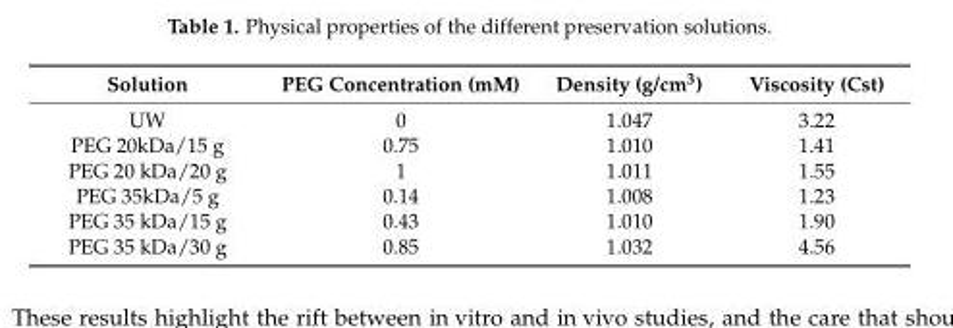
<table><thead><tr><td>Solution</td><td>PEG Concentration (mM)</td><td>Density (g/cm<sup>3</sup>)</td><td>Viscosity (Cst)</td></tr></thead><tbody><tr><td>UW</td><td>0</td><td>1.047</td><td>3.22</td></tr><tr><td>PEG 20kDa/15 g</td><td>0.75</td><td>1.010</td><td>1.41</td></tr><tr><td>PEG 20 kDa/20 g</td><td>1</td><td>1.011</td><td>1.55</td></tr><tr><td>PEG 35kDa/5 g</td><td>0.14</td><td>1.008</td><td>1.23</td></tr><tr><td>PEG 35 kDa/15 g</td><td>0.43</td><td>1.010</td><td>1.90</td></tr><tr><td>PEG 35 kDa/30 g</td><td>0.85</td><td>1.032</td><td>4.56</td></tr></tbody></table>